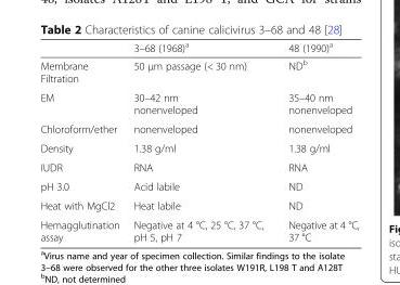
<table><thead><tr><td></td><td>3–68 (1968)<sup>a</sup></td><td>48 (1990)<sup>a</sup></td></tr></thead><tbody><tr><td>Membrane Filtration</td><td>50 μm passage (&lt; 30 nm)</td><td>ND<sup>b</sup></td></tr><tr><td>EM</td><td>30–42 nm nonenveloped</td><td>35–40 nm nonenveloped</td></tr><tr><td>Chloroform/ether</td><td>nonenveloped</td><td>nonenveloped</td></tr><tr><td>Density</td><td>1.38 g/ml</td><td>1.38 g/ml</td></tr><tr><td>IUDR</td><td>RNA</td><td>RNA</td></tr><tr><td>pH 3.0</td><td>Acid labile</td><td>ND</td></tr><tr><td>Heat with MgCl2</td><td>Heat labile</td><td>ND</td></tr><tr><td>Hemagglutination assay</td><td>Negative at 4 °C, 25 °C, 37 °C, pH 5, pH 7</td><td>Negative at 4 °C, 37 °C</td></tr></tbody></table>